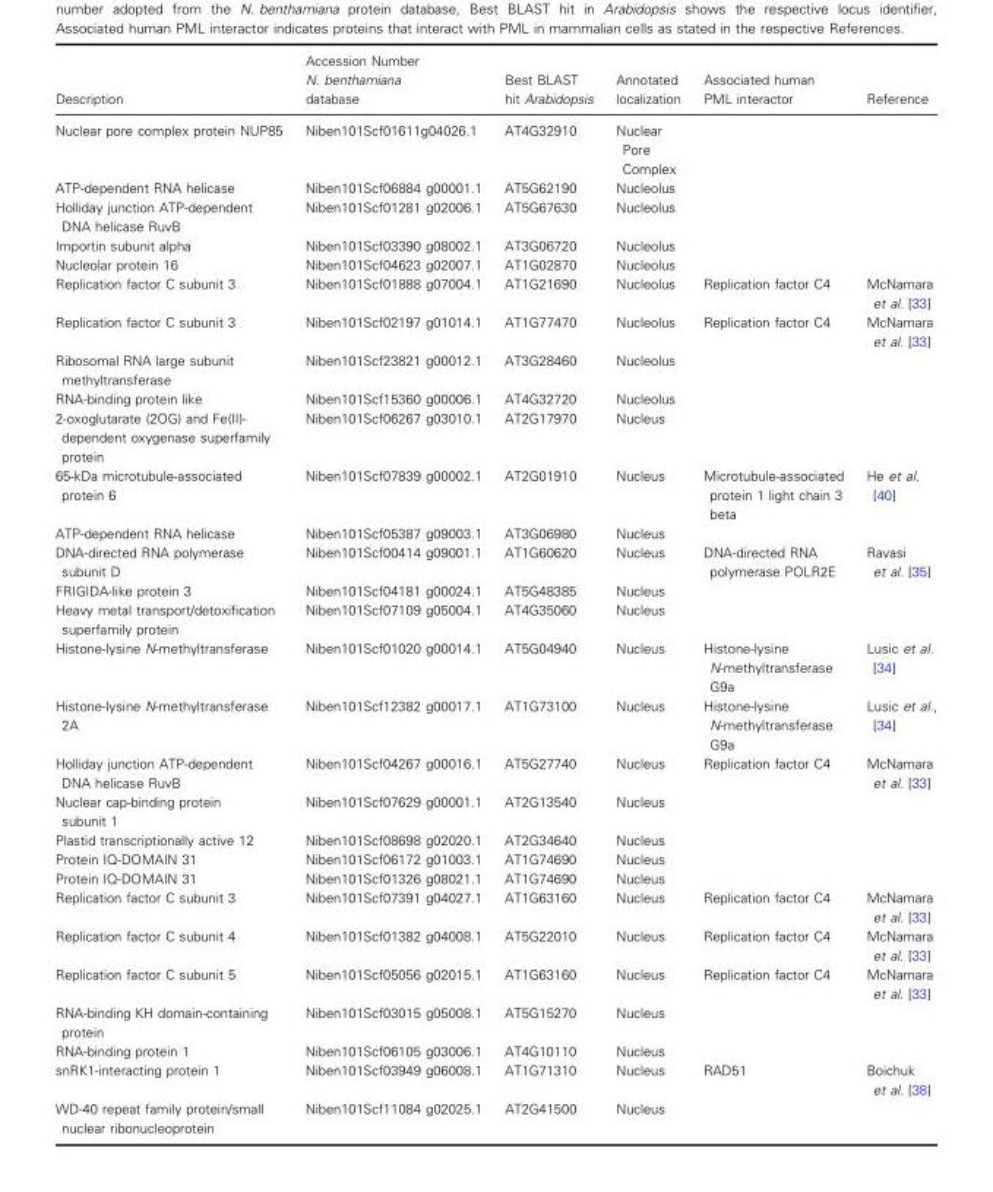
<table><thead><tr><td>Description</td><td>Accession Number N. benthamiana database</td><td>Best BLAST hit Arabidopsis</td><td>Annotated localization</td><td>Associated human PML interactor</td><td>Reference</td></tr></thead><tbody><tr><td>Nuclear pore complex protein NUP85</td><td>Niben101Scf01611g04026.1</td><td>AT4G32910</td><td>Nuclear Pore Complex</td><td></td><td></td></tr><tr><td>ATP-dependent RNA helicase</td><td>Niben101Scf06884 g00001.1</td><td>AT5G62190</td><td>Nucleolus</td><td></td><td></td></tr><tr><td>Holliday junction ATP-dependent DNA helicase RuvB</td><td>Niben101Scf01281 g02006.1</td><td>AT5G67630</td><td>Nucleolus</td><td></td><td></td></tr><tr><td>Importin subunit alpha</td><td>Niben101Scf03390 g08002.1</td><td>AT3G06720</td><td>Nucleolus</td><td></td><td></td></tr><tr><td>Nucleolar protein 16</td><td>Niben101Scf04623 g02007.1</td><td>AT1G02870</td><td>Nucleolus</td><td></td><td></td></tr><tr><td>Replication factor C subunit 3</td><td>Niben101Scf01888 g07004.1</td><td>AT1G21690</td><td>Nucleolus</td><td>Replication factor C4</td><td>McNamara et al. [33]</td></tr><tr><td>Replication factor C subunit 3</td><td>Niben101Scf02197 g01014.1</td><td>AT1G77470</td><td>Nucleolus</td><td>Replication factor C4</td><td>McNamara et al. [33]</td></tr><tr><td>Ribosomal RNA large subunit methyltransferase</td><td>Niben101Scf23821 g00012.1</td><td>AT3G28460</td><td>Nucleolus</td><td></td><td></td></tr><tr><td>RNA-binding protein like</td><td>Niben101Scf15360 g00006.1</td><td>AT4G32720</td><td>Nucleolus</td><td></td><td></td></tr><tr><td>2-oxoglutarate (2OG) and Fe(II)- dependent oxygenase superfamily protein</td><td>Niben101Scf06267 g03010.1</td><td>AT2G17970</td><td>Nucleus</td><td></td><td></td></tr><tr><td>65-kDa microtubule-associated protein 6</td><td>Niben101Scf07839 g00002.1</td><td>AT2G01910</td><td>Nucleus</td><td>Microtubule-associated protein 1 light chain 3 beta</td><td>He et al. [40]</td></tr><tr><td>ATP-dependent RNA helicase</td><td>Niben101Scf05387 g09003.1</td><td>AT3G06980</td><td>Nucleus</td><td></td><td></td></tr><tr><td>DNA-directed RNA polymerase subunit D</td><td>Niben101Scf00414 g09001.1</td><td>AT1G60620</td><td>Nucleus</td><td>DNA-directed RNA polymerase POLR2E</td><td>Ravasi et al. [35]</td></tr><tr><td>FRIGIDA-like protein 3</td><td>Niben101Scf04181 g00024.1</td><td>AT5G48385</td><td>Nucleus</td><td></td><td></td></tr><tr><td>Heavy metal transport/detoxification superfamily protein</td><td>Niben101Scf07109 g05004.1</td><td>AT4G35060</td><td>Nucleus</td><td></td><td></td></tr><tr><td>Histone-lysine N-methyltransferase</td><td>Niben101Scf01020 g00014.1</td><td>AT5G04940</td><td>Nucleus</td><td>Histone-lysine N-methyltransferase G9a</td><td>Lusic et al. [34]</td></tr><tr><td>Histone-lysine N-methyltransferase 2A</td><td>Niben101Scf12382 g00017.1</td><td>AT1G73100</td><td>Nucleus</td><td>Histone-lysine N-methyltransferase G9a</td><td>Lusic et al., [34]</td></tr><tr><td>Holliday junction ATP-dependent DNA helicase RuvB</td><td>Niben101Scf04267 g00016.1</td><td>AT5G27740</td><td>Nucleus</td><td>Replication factor C4</td><td>McNamara et al. [33]</td></tr><tr><td>Nuclear cap-binding protein subunit 1</td><td>Niben101Scf07629 g00001.1</td><td>AT2G13540</td><td>Nucleus</td><td></td><td></td></tr><tr><td>Plastid transcriptionally active 12</td><td>Niben101Scf08698 g02020.1</td><td>AT2G34640</td><td>Nucleus</td><td></td><td></td></tr><tr><td>Protein IQ-DOMAIN 31</td><td>Niben101Scf06172 g01003.1</td><td>AT1G74690</td><td>Nucleus</td><td></td><td></td></tr><tr><td>Protein IQ-DOMAIN 31</td><td>Niben101Scf01326 g08021.1</td><td>AT1G74690</td><td>Nucleus</td><td></td><td></td></tr><tr><td>Replication factor C subunit 3</td><td>Niben101Scf07391 g04027.1</td><td>AT1G63160</td><td>Nucleus</td><td>Replication factor C4</td><td>McNamara et al. [33]</td></tr><tr><td>Replication factor C subunit 4</td><td>Niben101Scf01382 g04008.1</td><td>AT5G22010</td><td>Nucleus</td><td>Replication factor C4</td><td>McNamara et al. [33]</td></tr><tr><td>Replication factor C subunit 5</td><td>Niben101Scf05056 g02015.1</td><td>AT1G63160</td><td>Nucleus</td><td>Replication factor C4</td><td>McNamara et al. [33]</td></tr><tr><td>RNA-binding KH domain-containing protein</td><td>Niben101Scf03015 g05008.1</td><td>AT5G15270</td><td>Nucleus</td><td></td><td></td></tr><tr><td>RNA-binding protein 1</td><td>Niben101Scf06105 g03006.1</td><td>AT4G10110</td><td>Nucleus</td><td></td><td></td></tr><tr><td>snRK1-interacting protein 1</td><td>Niben101Scf03949 g06008.1</td><td>AT1G71310</td><td>Nucleus</td><td>RAD51</td><td>Boichuk et al. [38]</td></tr><tr><td>WD-40 repeat family protein/small nuclear ribonucleoprotein</td><td>Niben101Scf11084 g02025.1</td><td>AT2G41500</td><td>Nucleus</td><td></td><td></td></tr></tbody></table>